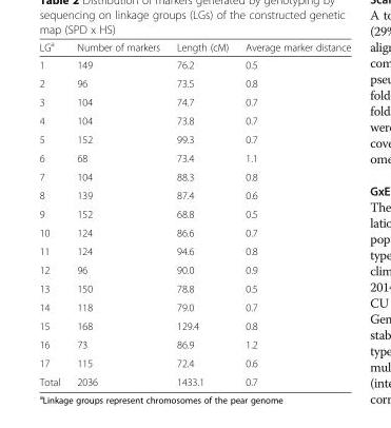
<table><thead><tr><td>LG<sup>a</sup></td><td>Number of markers</td><td>Length (cM)</td><td>Average marker distance</td></tr></thead><tbody><tr><td>1</td><td>149</td><td>76.2</td><td>0.5</td></tr><tr><td>2</td><td>96</td><td>73.5</td><td>0.8</td></tr><tr><td>3</td><td>104</td><td>74.7</td><td>0.7</td></tr><tr><td>4</td><td>104</td><td>73.8</td><td>0.7</td></tr><tr><td>5</td><td>152</td><td>99.3</td><td>0.7</td></tr><tr><td>6</td><td>68</td><td>73.4</td><td>1.1</td></tr><tr><td>7</td><td>104</td><td>88.3</td><td>0.8</td></tr><tr><td>8</td><td>139</td><td>87.4</td><td>0.6</td></tr><tr><td>9</td><td>152</td><td>68.8</td><td>0.5</td></tr><tr><td>10</td><td>124</td><td>86.6</td><td>0.7</td></tr><tr><td>11</td><td>124</td><td>94.6</td><td>0.8</td></tr><tr><td>12</td><td>96</td><td>90.0</td><td>0.9</td></tr><tr><td>13</td><td>150</td><td>78.8</td><td>0.5</td></tr><tr><td>14</td><td>118</td><td>79.0</td><td>0.7</td></tr><tr><td>15</td><td>168</td><td>129.4</td><td>0.8</td></tr><tr><td>16</td><td>73</td><td>86.9</td><td>1.2</td></tr><tr><td>17</td><td>115</td><td>72.4</td><td>0.6</td></tr><tr><td>Total</td><td>2036</td><td>1433.1</td><td>0.7</td></tr></tbody></table>